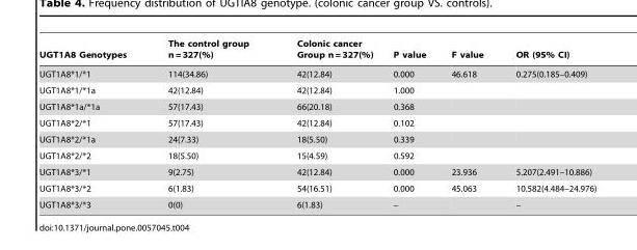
<table><thead><tr><td>UGT1A8 Genotypes</td><td>The control group n = 327(%)</td><td>Colonic cancer Group n = 327(%)</td><td>P value</td><td>F value</td><td>OR (95% CI)</td></tr></thead><tbody><tr><td>UGT1A8*1/*1</td><td>114(34.86)</td><td>42(12.84)</td><td>0.000</td><td>46.618</td><td>0.275(0.185–0.409)</td></tr><tr><td>UGT1A8*1/*1a</td><td>42(12.84)</td><td>42(12.84)</td><td>1.000</td><td></td><td></td></tr><tr><td>UGT1A8*1a/*1a</td><td>57(17.43)</td><td>66(20.18)</td><td>0.368</td><td></td><td></td></tr><tr><td>UGT1A8*2/*1</td><td>57(17.43)</td><td>42(12.84)</td><td>0.102</td><td></td><td></td></tr><tr><td>UGT1A8*2/*1a</td><td>24(7.33)</td><td>18(5.50)</td><td>0.339</td><td></td><td></td></tr><tr><td>UGT1A8*2/*2</td><td>18(5.50)</td><td>15(4.59)</td><td>0.592</td><td></td><td></td></tr><tr><td>UGT1A8*3/*1</td><td>9(2.75)</td><td>42(12.84)</td><td>0.000</td><td>23.936</td><td>5.207(2.491–10.886)</td></tr><tr><td>UGT1A8*3/*2</td><td>6(1.83)</td><td>54(16.51)</td><td>0.000</td><td>45.063</td><td>10.582(4.484–24.976)</td></tr><tr><td>UGT1A8*3/*3</td><td>0(0)</td><td>6(1.83)</td><td>–</td><td></td><td>–</td></tr></tbody></table>